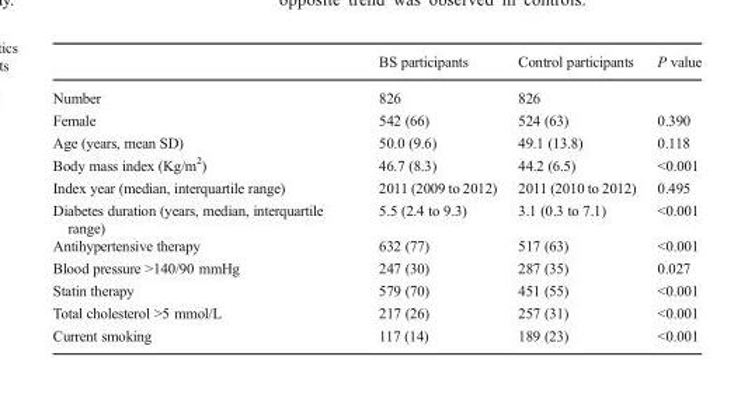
<table><thead><tr><td></td><td>BS participants</td><td>Control participants</td><td>P value</td></tr></thead><tbody><tr><td>Number</td><td>826</td><td>826</td><td></td></tr><tr><td>Female</td><td>542 (66)</td><td>524 (63)</td><td>0.390</td></tr><tr><td>Age (years, mean SD)</td><td>50.0 (9.6)</td><td>49.1 (13.8)</td><td>0.118</td></tr><tr><td>Body mass index (Kg/m<sup>2</sup>)</td><td>46.7 (8.3)</td><td>44.2 (6.5)</td><td>&lt;0.001</td></tr><tr><td>Index year (median, interquartile range)</td><td>2011 (2009 to 2012)</td><td>2011 (2010 to 2012)</td><td>0.495</td></tr><tr><td>Diabetes duration (years, median, interquartile range)</td><td>5.5 (2.4 to 9.3)</td><td>3.1 (0.3 to 7.1)</td><td>&lt;0.001</td></tr><tr><td>Antihypertensive therapy</td><td>632 (77)</td><td>517 (63)</td><td>&lt;0.001</td></tr><tr><td>Blood pressure &gt;140/90 mmHg</td><td>247 (30)</td><td>287 (35)</td><td>0.027</td></tr><tr><td>Statin therapy</td><td>579 (70)</td><td>451 (55)</td><td>&lt;0.001</td></tr><tr><td>Total cholesterol &gt;5 mmol/L</td><td>217 (26)</td><td>257 (31)</td><td>&lt;0.001</td></tr><tr><td>Current smoking</td><td>117 (14)</td><td>189 (23)</td><td>&lt;0.001</td></tr></tbody></table>